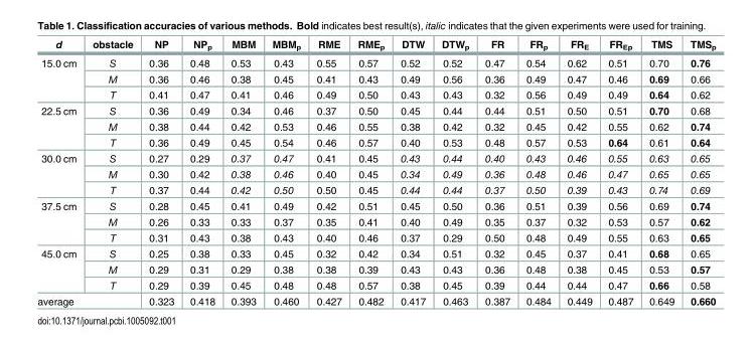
<table><thead><tr><td>d</td><td>obstacle</td><td>NP</td><td>NP<sub>p</sub></td><td>MBM</td><td>MBM<sub>p</sub></td><td>RME</td><td>RME<sub>p</sub></td><td>DTW</td><td>DTW<sub>p</sub></td><td>FR</td><td>FR<sub>p</sub></td><td>FR<sub>E</sub></td><td>FR<sub>Ep</sub></td><td>TMS</td><td>TMS<sub>p</sub></td></tr></thead><tbody><tr><td rowspan="3">15.0 cm</td><td>S</td><td>0.36</td><td>0.48</td><td>0.53</td><td>0.43</td><td>0.55</td><td>0.57</td><td>0.52</td><td>0.52</td><td>0.47</td><td>0.54</td><td>0.62</td><td>0.51</td><td>0.70</td><td>0.76</td></tr><tr><td>M</td><td>0.36</td><td>0.46</td><td>0.38</td><td>0.45</td><td>0.41</td><td>0.43</td><td>0.49</td><td>0.56</td><td>0.36</td><td>0.49</td><td>0.47</td><td>0.46</td><td>0.69</td><td>0.66</td></tr><tr><td>T</td><td>0.41</td><td>0.47</td><td>0.41</td><td>0.46</td><td>0.49</td><td>0.50</td><td>0.43</td><td>0.43</td><td>0.32</td><td>0.56</td><td>0.49</td><td>0.49</td><td>0.64</td><td>0.62</td></tr><tr><td rowspan="3">22.5 cm</td><td>S</td><td>0.36</td><td>0.49</td><td>0.34</td><td>0.46</td><td>0.37</td><td>0.50</td><td>0.45</td><td>0.44</td><td>0.44</td><td>0.51</td><td>0.50</td><td>0.51</td><td>0.70</td><td>0.68</td></tr><tr><td>M</td><td>0.38</td><td>0.44</td><td>0.42</td><td>0.53</td><td>0.46</td><td>0.55</td><td>0.38</td><td>0.42</td><td>0.32</td><td>0.45</td><td>0.42</td><td>0.55</td><td>0.62</td><td>0.74</td></tr><tr><td>T</td><td>0.36</td><td>0.49</td><td>0.45</td><td>0.54</td><td>0.46</td><td>0.57</td><td>0.40</td><td>0.53</td><td>0.48</td><td>0.57</td><td>0.53</td><td>0.64</td><td>0.61</td><td>0.64</td></tr><tr><td rowspan="3">30.0 cm</td><td>S</td><td>0.27</td><td>0.29</td><td>0.37</td><td>0.47</td><td>0.41</td><td>0.45</td><td>0.43</td><td>0.44</td><td>0.40</td><td>0.43</td><td>0.46</td><td>0.55</td><td>0.63</td><td>0.65</td></tr><tr><td>M</td><td>0.30</td><td>0.42</td><td>0.38</td><td>0.46</td><td>0.40</td><td>0.45</td><td>0.34</td><td>0.49</td><td>0.36</td><td>0.48</td><td>0.46</td><td>0.47</td><td>0.65</td><td>0.65</td></tr><tr><td>T</td><td>0.37</td><td>0.44</td><td>0.42</td><td>0.50</td><td>0.50</td><td>0.45</td><td>0.44</td><td>0.44</td><td>0.37</td><td>0.50</td><td>0.39</td><td>0.43</td><td>0.74</td><td>0.69</td></tr><tr><td rowspan="3">37.5 cm</td><td>S</td><td>0.28</td><td>0.45</td><td>0.41</td><td>0.49</td><td>0.42</td><td>0.51</td><td>0.45</td><td>0.50</td><td>0.36</td><td>0.51</td><td>0.39</td><td>0.56</td><td>0.69</td><td>0.74</td></tr><tr><td>M</td><td>0.26</td><td>0.33</td><td>0.33</td><td>0.37</td><td>0.35</td><td>0.41</td><td>0.40</td><td>0.49</td><td>0.35</td><td>0.37</td><td>0.32</td><td>0.53</td><td>0.57</td><td>0.62</td></tr><tr><td>T</td><td>0.31</td><td>0.43</td><td>0.38</td><td>0.43</td><td>0.40</td><td>0.46</td><td>0.37</td><td>0.29</td><td>0.50</td><td>0.48</td><td>0.49</td><td>0.55</td><td>0.63</td><td>0.65</td></tr><tr><td rowspan="3">45.0 cm</td><td>S</td><td>0.25</td><td>0.38</td><td>0.33</td><td>0.45</td><td>0.32</td><td>0.42</td><td>0.34</td><td>0.51</td><td>0.32</td><td>0.45</td><td>0.37</td><td>0.41</td><td>0.68</td><td>0.65</td></tr><tr><td>M</td><td>0.29</td><td>0.31</td><td>0.29</td><td>0.38</td><td>0.38</td><td>0.39</td><td>0.43</td><td>0.43</td><td>0.36</td><td>0.48</td><td>0.38</td><td>0.45</td><td>0.53</td><td>0.57</td></tr><tr><td>T</td><td>0.29</td><td>0.39</td><td>0.45</td><td>0.48</td><td>0.48</td><td>0.57</td><td>0.38</td><td>0.45</td><td>0.39</td><td>0.44</td><td>0.44</td><td>0.47</td><td>0.66</td><td>0.58</td></tr><tr><td colspan="2">average</td><td>0.323</td><td>0.418</td><td>0.393</td><td>0.460</td><td>0.427</td><td>0.482</td><td>0.417</td><td>0.463</td><td>0.387</td><td>0.484</td><td>0.449</td><td>0.487</td><td>0.649</td><td>0.660</td></tr></tbody></table>